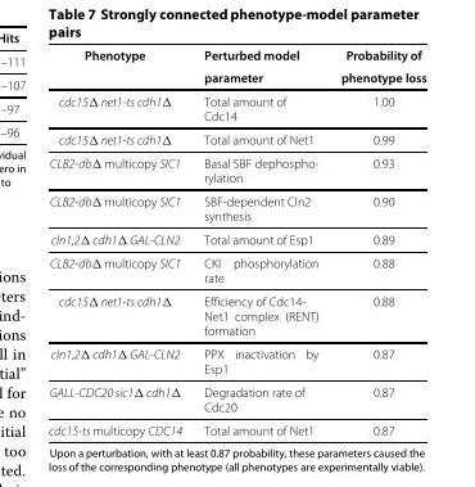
<table><thead><tr><td>Phenotype</td><td>Perturbed model parameter</td><td>Probability of phenotype loss</td></tr></thead><tbody><tr><td>cdc15Δ net1-ts cdh1Δ</td><td>Total amount of Cdc14</td><td>1.00</td></tr><tr><td>cdc15Δ net1-ts cdh1Δ</td><td>Total amount of Net1</td><td>0.99</td></tr><tr><td>CLB2-dbΔ multicopy SIC1</td><td>Basal SBF dephospho- rylation</td><td>0.93</td></tr><tr><td>CLB2-dbΔ multicopy SIC1</td><td>SBF-dependent Cln2 synthesis</td><td>0.90</td></tr><tr><td>cln1,2Δ cdh1Δ GAL-CLN2</td><td>Total amount of Esp1</td><td>0.89</td></tr><tr><td>CLB2-dbΔ multicopy SIC1</td><td>CKI phosphorylation rate</td><td>0.88</td></tr><tr><td>cdc15Δ net1-ts cdh1Δ</td><td>Efficiency of Cdc14- Net1 complex (RENT) formation</td><td>0.88</td></tr><tr><td>cln1,2Δ cdh1Δ GAL-CLN2</td><td>PPX inactivation by Esp1</td><td>0.87</td></tr><tr><td>GALL-CDC20 sic1Δ cdh1Δ</td><td>Degradation rate of Cdc20</td><td>0.87</td></tr><tr><td>cdc15-ts multicopy CDC14</td><td>Total amount of Net1</td><td>0.87</td></tr></tbody></table>